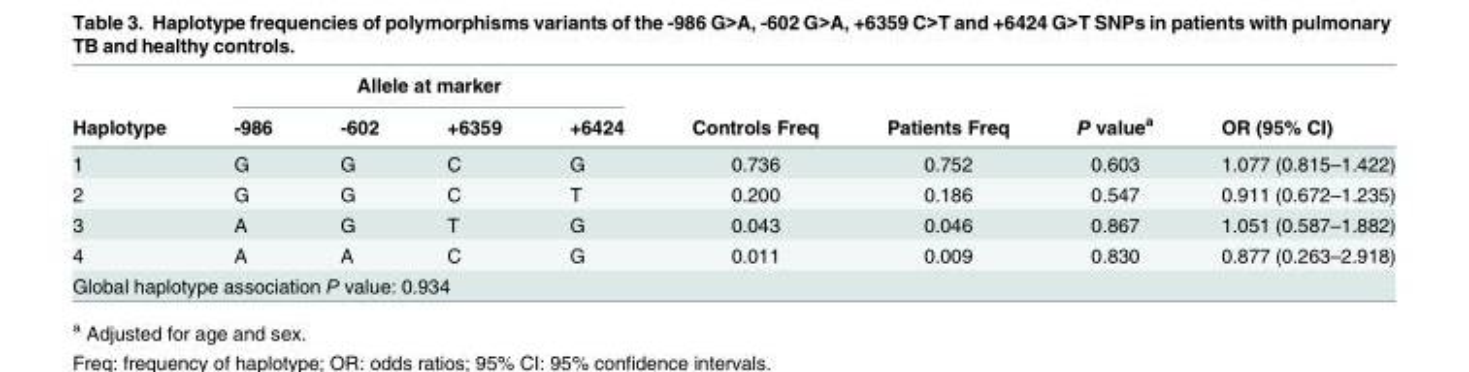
<table><thead><tr><td rowspan="2">Haplotype</td><td colspan="4">Allele at marker</td><td rowspan="2">Controls Freq</td><td rowspan="2">Patients Freq</td><td rowspan="2">P value<sup>a</sup></td><td rowspan="2">OR (95% CI)</td></tr><tr><td>-986</td><td>-602</td><td>+6359</td><td>+6424</td></tr></thead><tbody><tr><td>1</td><td>G</td><td>G</td><td>C</td><td>G</td><td>0.736</td><td>0.752</td><td>0.603</td><td>1.077 (0.815–1.422)</td></tr><tr><td>2</td><td>G</td><td>G</td><td>C</td><td>T</td><td>0.200</td><td>0.186</td><td>0.547</td><td>0.911 (0.672–1.235)</td></tr><tr><td>3</td><td>A</td><td>G</td><td>T</td><td>G</td><td>0.043</td><td>0.046</td><td>0.867</td><td>1.051 (0.587–1.882)</td></tr><tr><td>4</td><td>A</td><td>A</td><td>C</td><td>G</td><td>0.011</td><td>0.009</td><td>0.830</td><td>0.877 (0.263–2.918)</td></tr><tr><td colspan="9">Global haplotype association P value: 0.934</td></tr></tbody></table>